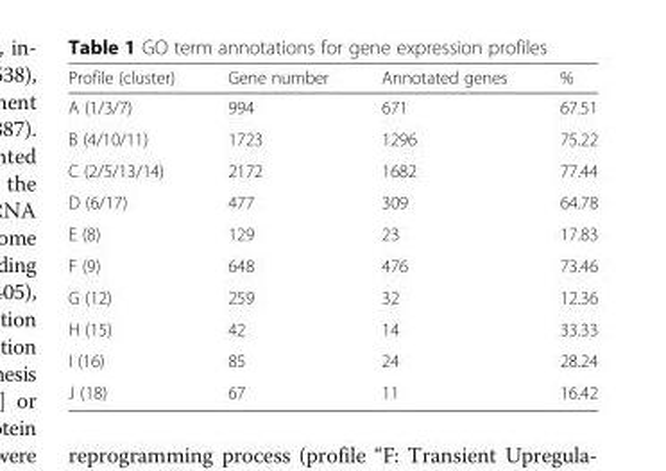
<table><thead><tr><td>Profile (cluster)</td><td>Gene number</td><td>Annotated genes</td><td>%</td></tr></thead><tbody><tr><td>A (1/3/7)</td><td>994</td><td>671</td><td>67.51</td></tr><tr><td>B (4/10/11)</td><td>1723</td><td>1296</td><td>75.22</td></tr><tr><td>C (2/5/13/14)</td><td>2172</td><td>1682</td><td>77.44</td></tr><tr><td>D (6/17)</td><td>477</td><td>309</td><td>64.78</td></tr><tr><td>E (8)</td><td>129</td><td>23</td><td>17.83</td></tr><tr><td>F (9)</td><td>648</td><td>476</td><td>73.46</td></tr><tr><td>G (12)</td><td>259</td><td>32</td><td>12.36</td></tr><tr><td>H (15)</td><td>42</td><td>14</td><td>33.33</td></tr><tr><td>I (16)</td><td>85</td><td>24</td><td>28.24</td></tr><tr><td>J (18)</td><td>67</td><td>11</td><td>16.42</td></tr></tbody></table>